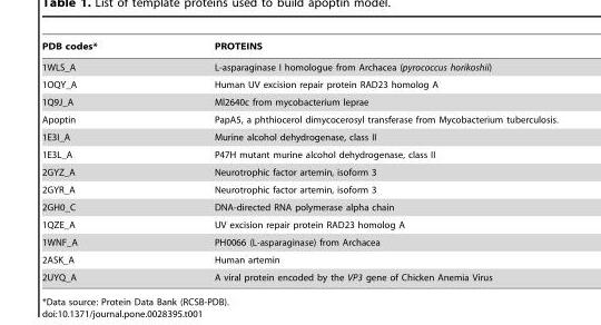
<table><thead><tr><td>PDB codes*</td><td>PROTEINS</td></tr></thead><tbody><tr><td>1WLS_A</td><td>L-asparaginase I homologue from Archacea (pyrococcus horikoshii)</td></tr><tr><td>1OQY_A</td><td>Human UV excision repair protein RAD23 homolog A</td></tr><tr><td>1Q9J_A</td><td>Ml2640c from mycobacterium leprae</td></tr><tr><td>Apoptin</td><td>PapA5, a phthiocerol dimycocerosyl transferase from Mycobacterium tuberculosis.</td></tr><tr><td>1E3I_A</td><td>Murine alcohol dehydrogenase, class II</td></tr><tr><td>1E3L_A</td><td>P47H mutant murine alcohol dehydrogenase, class II</td></tr><tr><td>2GYZ_A</td><td>Neurotrophic factor artemin, isoform 3</td></tr><tr><td>2GYR_A</td><td>Neurotrophic factor artemin, isoform 3</td></tr><tr><td>2GH0_C</td><td>DNA-directed RNA polymerase alpha chain</td></tr><tr><td>1QZE_A</td><td>UV excision repair protein RAD23 homolog A</td></tr><tr><td>1WNF_A</td><td>PH0066 (L-asparaginase) from Archacea</td></tr><tr><td>2ASK_A</td><td>Human artemin</td></tr><tr><td>2UYQ_A</td><td>A viral protein encoded by the VP3 gene of Chicken Anemia Virus</td></tr></tbody></table>